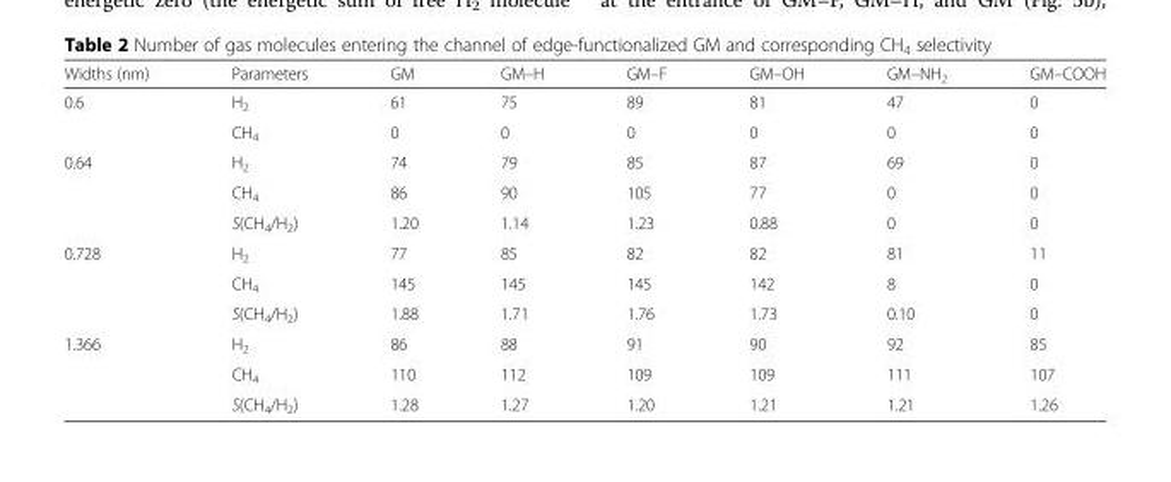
<table><thead><tr><td>Widths (nm)</td><td>Parameters</td><td>GM</td><td>GM–H</td><td>GM–F</td><td>GM–OH</td><td>GM–NH<sub>2</sub></td><td>GM–COOH</td></tr></thead><tbody><tr><td rowspan="2">0.6</td><td>H<sub>2</sub></td><td>61</td><td>75</td><td>89</td><td>81</td><td>47</td><td>0</td></tr><tr><td>CH<sub>4</sub></td><td>0</td><td>0</td><td>0</td><td>0</td><td>0</td><td>0</td></tr><tr><td rowspan="3">0.64</td><td>H<sub>2</sub></td><td>74</td><td>79</td><td>85</td><td>87</td><td>69</td><td>0</td></tr><tr><td>CH<sub>4</sub></td><td>86</td><td>90</td><td>105</td><td>77</td><td>0</td><td>0</td></tr><tr><td>S(CH<sub>4</sub>/H<sub>2</sub>)</td><td>1.20</td><td>1.14</td><td>1.23</td><td>0.88</td><td>0</td><td>0</td></tr><tr><td rowspan="3">0.728</td><td>H<sub>2</sub></td><td>77</td><td>85</td><td>82</td><td>82</td><td>81</td><td>11</td></tr><tr><td>CH<sub>4</sub></td><td>145</td><td>145</td><td>145</td><td>142</td><td>8</td><td>0</td></tr><tr><td>S(CH<sub>4</sub>/H<sub>2</sub>)</td><td>1.88</td><td>1.71</td><td>1.76</td><td>1.73</td><td>0.10</td><td>0</td></tr><tr><td rowspan="3">1.366</td><td>H<sub>2</sub></td><td>86</td><td>88</td><td>91</td><td>90</td><td>92</td><td>85</td></tr><tr><td>CH<sub>4</sub></td><td>110</td><td>112</td><td>109</td><td>109</td><td>111</td><td>107</td></tr><tr><td>S(CH<sub>4</sub>/H<sub>2</sub>)</td><td>1.28</td><td>1.27</td><td>1.20</td><td>1.21</td><td>1.21</td><td>1.26</td></tr></tbody></table>